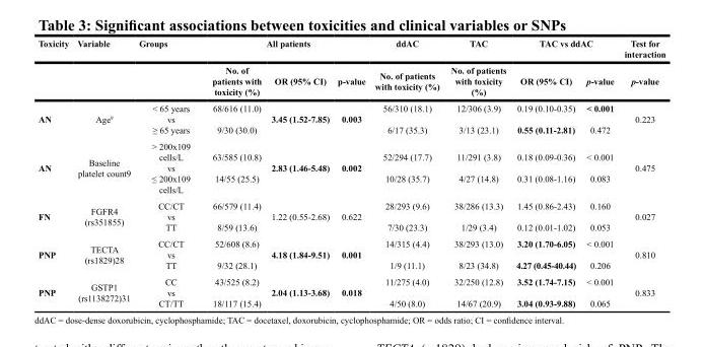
<table><thead><tr><td rowspan="2">Toxicity</td><td rowspan="2">Variable</td><td rowspan="2">Groups</td><td colspan="3">All patients</td><td rowspan="2">ddAC No. of patients with toxicity (%)</td><td rowspan="2">TAC No. of patients with toxicity (%)</td><td colspan="2">TAC vs ddAC</td><td rowspan="2">Test for interaction p-value</td></tr><tr><td>No. of patients with toxicity (%)</td><td>OR (95% CI)</td><td>p-value</td><td>OR (95% CI)</td><td>p-value</td></tr></thead><tbody><tr><td>AN</td><td>Age<sup>9</sup></td><td>&lt; 65 years vs ≥ 65 years</td><td>68/616 (11.0) 9/30 (30.0)</td><td>3.45 (1.52-7.85)</td><td>0.003</td><td>56/310 (18.1) 6/17 (35.3)</td><td>12/306 (3.9) 3/13 (23.1)</td><td>0.19 (0.10-0.35) 0.55 (0.11-2.81)</td><td>&lt; 0.001 0.472</td><td>0.223</td></tr><tr><td>AN</td><td>Baseline platelet count9</td><td>&gt; 200x109 cells/L vs ≤ 200x109 cells/L</td><td>63/585 (10.8) 14/55 (25.5)</td><td>2.83 (1.46-5.48)</td><td>0.002</td><td>52/294 (17.7) 10/28 (35.7)</td><td>11/291 (3.8) 4/27 (14.8)</td><td>0.18 (0.09-0.36) 0.31 (0.08-1.16)</td><td>&lt; 0.001 0.083</td><td>0.475</td></tr><tr><td>FN</td><td>FGFR4 (rs351855)</td><td>CC/CT vs TT</td><td>66/579 (11.4) 8/59 (13.6)</td><td>1.22 (0.55-2.68)</td><td>0.622</td><td>28/293 (9.6) 7/30 (23.3)</td><td>38/286 (13.3) 1/29 (3.4)</td><td>1.45 (0.86-2.43) 0.12 (0.01-1.02)</td><td>0.160 0.053</td><td>0.027</td></tr><tr><td>PNP</td><td>TECTA (rs1829)28</td><td>CC/CT vs TT</td><td>52/608 (8.6) 9/32 (28.1)</td><td>4.18 (1.84-9.51)</td><td>0.001</td><td>14/315 (4.4) 1/9 (11.1)</td><td>38/293 (13.0) 8/23 (34.8)</td><td>3.20 (1.70-6.05) 4.27 (0.45-40.44)</td><td>&lt; 0.001 0.206</td><td>0.810</td></tr><tr><td>PNP</td><td>GSTP1 (rs1138272)31</td><td>CC vs CT/TT</td><td>43/525 (8.2) 18/117 (15.4)</td><td>2.04 (1.13-3.68)</td><td>0.018</td><td>11/275 (4.0) 4/50 (8.0)</td><td>32/250 (12.8) 14/67 (20.9)</td><td>3.52 (1.74-7.15) 3.04 (0.93-9.88)</td><td>&lt; 0.001 0.065</td><td>0.833</td></tr></tbody></table>